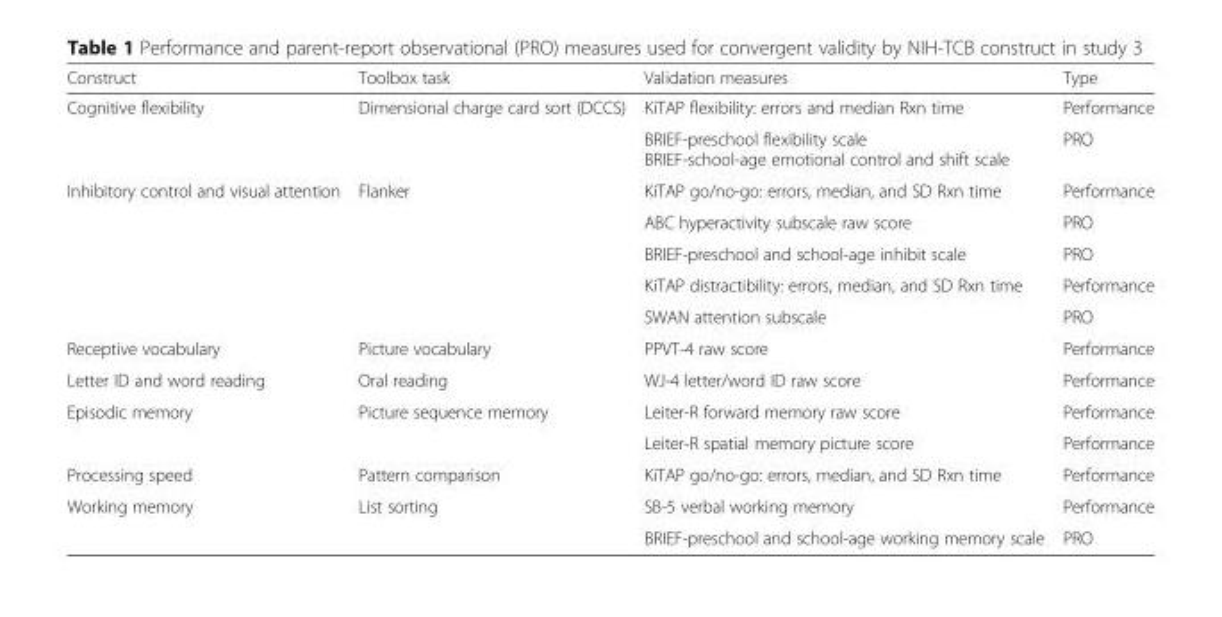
<table><thead><tr><td>Construct</td><td>Toolbox task</td><td>Validation measures</td><td>Type</td></tr></thead><tbody><tr><td rowspan="2">Cognitive flexibility</td><td rowspan="2">Dimensional charge card sort (DCCS)</td><td>KiTAP flexibility: errors and median Rxn time</td><td>Performance</td></tr><tr><td>BRIEF-preschool flexibility scale BRIEF-school-age emotional control and shift scale</td><td>PRO</td></tr><tr><td rowspan="5">Inhibitory control and visual attention</td><td rowspan="5">Flanker</td><td>KiTAP go/no-go: errors, median, and SD Rxn time</td><td>Performance</td></tr><tr><td>ABC hyperactivity subscale raw score</td><td>PRO</td></tr><tr><td>BRIEF-preschool and school-age inhibit scale</td><td>PRO</td></tr><tr><td>KiTAP distractibility: errors, median, and SD Rxn time</td><td>Performance</td></tr><tr><td>SWAN attention subscale</td><td>PRO</td></tr><tr><td>Receptive vocabulary</td><td>Picture vocabulary</td><td>PPVT-4 raw score</td><td>Performance</td></tr><tr><td>Letter ID and word reading</td><td>Oral reading</td><td>WJ-4 letter/word ID raw score</td><td>Performance</td></tr><tr><td rowspan="2">Episodic memory</td><td rowspan="2">Picture sequence memory</td><td>Leiter-R forward memory raw score</td><td>Performance</td></tr><tr><td>Leiter-R spatial memory picture score</td><td>Performance</td></tr><tr><td>Processing speed</td><td>Pattern comparison</td><td>KiTAP go/no-go: errors, median, and SD Rxn time</td><td>Performance</td></tr><tr><td rowspan="2">Working memory</td><td rowspan="2">List sorting</td><td>SB-5 verbal working memory</td><td>Performance</td></tr><tr><td>BRIEF-preschool and school-age working memory scale</td><td>PRO</td></tr></tbody></table>